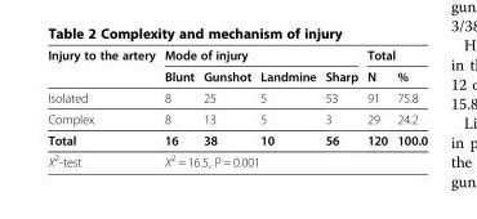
<table><thead><tr><td rowspan="2">Injury to the artery</td><td colspan="4">Mode of injury</td><td colspan="2">Total</td></tr><tr><td>Blunt</td><td>Gunshot</td><td>Landmine</td><td>Sharp</td><td>N</td><td>%</td></tr></thead><tbody><tr><td>Isolated</td><td>8</td><td>25</td><td>5</td><td>53</td><td>91</td><td>75.8</td></tr><tr><td>Complex</td><td>8</td><td>13</td><td>5</td><td>3</td><td>29</td><td>24.2</td></tr><tr><td>Total</td><td>16</td><td>38</td><td>10</td><td>56</td><td>120</td><td>100.0</td></tr><tr><td>X<sup>2</sup>-test</td><td colspan="4">X<sup>2</sup> = 16.5, P = 0.001</td><td colspan="2"></td></tr></tbody></table>